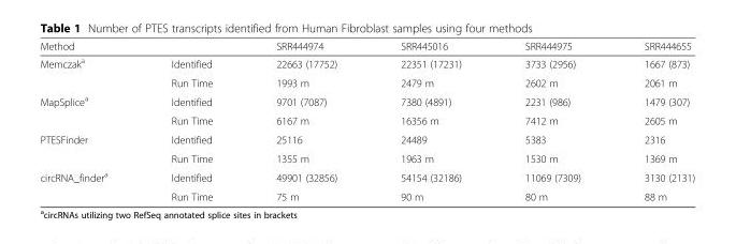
<table><thead><tr><td>Method</td><td></td><td>SRR444974</td><td>SRR445016</td><td>SRR444975</td><td>SRR444655</td></tr></thead><tbody><tr><td rowspan="2">Memczak<sup>a</sup></td><td>Identified</td><td>22663 (17752)</td><td>22351 (17231)</td><td>3733 (2956)</td><td>1667 (873)</td></tr><tr><td>Run Time</td><td>1993 m</td><td>2479 m</td><td>2602 m</td><td>2061 m</td></tr><tr><td rowspan="2">MapSplice<sup>a</sup></td><td>Identified</td><td>9701 (7087)</td><td>7380 (4891)</td><td>2231 (986)</td><td>1479 (307)</td></tr><tr><td>Run Time</td><td>6167 m</td><td>16356 m</td><td>7412 m</td><td>2605 m</td></tr><tr><td rowspan="2">PTESFinder</td><td>Identified</td><td>25116</td><td>24489</td><td>5383</td><td>2316</td></tr><tr><td>Run Time</td><td>1355 m</td><td>1963 m</td><td>1530 m</td><td>1369 m</td></tr><tr><td rowspan="2">circRNA_finder<sup>a</sup></td><td>Identified</td><td>49901 (32856)</td><td>54154 (32186)</td><td>11069 (7309)</td><td>3130 (2131)</td></tr><tr><td>Run Time</td><td>75 m</td><td>90 m</td><td>80 m</td><td>88 m</td></tr></tbody></table>